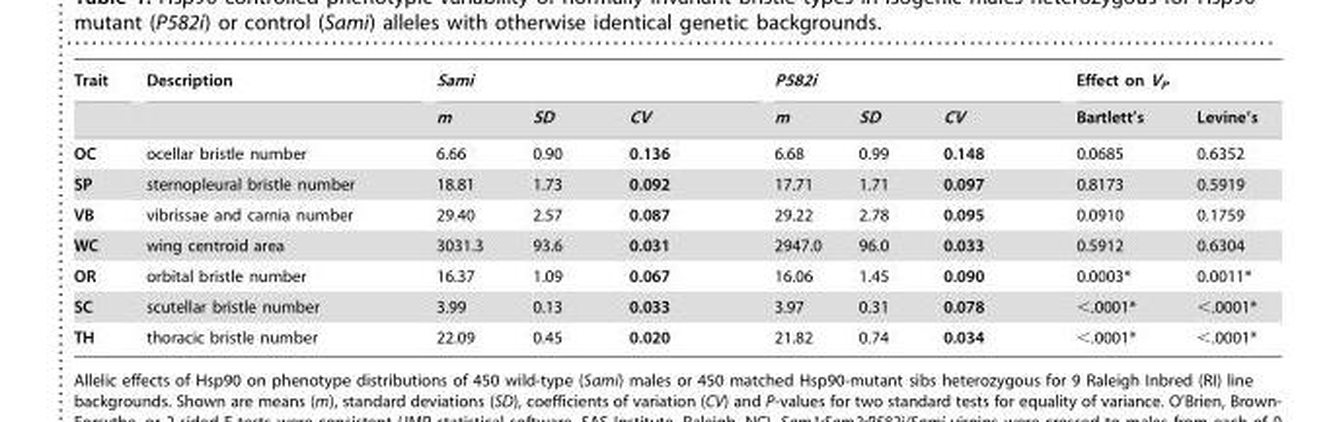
<table><thead><tr><td rowspan="2">Trait</td><td rowspan="2">Description</td><td colspan="3">Sami</td><td colspan="3">P582i</td><td colspan="2">Effect on V<sub>P</sub></td></tr><tr><td>m</td><td>SD</td><td>CV</td><td>m</td><td>SD</td><td>CV</td><td>Bartlett’s</td><td>Levine’s</td></tr></thead><tbody><tr><td>OC</td><td>ocellar bristle number</td><td>6.66</td><td>0.90</td><td>0.136</td><td>6.68</td><td>0.99</td><td>0.148</td><td>0.0685</td><td>0.6352</td></tr><tr><td>SP</td><td>sternopleural bristle number</td><td>18.81</td><td>1.73</td><td>0.092</td><td>17.71</td><td>1.71</td><td>0.097</td><td>0.8173</td><td>0.5919</td></tr><tr><td>VB</td><td>vibrissae and carnia number</td><td>29.40</td><td>2.57</td><td>0.087</td><td>29.22</td><td>2.78</td><td>0.095</td><td>0.0910</td><td>0.1759</td></tr><tr><td>WC</td><td>wing centroid area</td><td>3031.3</td><td>93.6</td><td>0.031</td><td>2947.0</td><td>96.0</td><td>0.033</td><td>0.5912</td><td>0.6304</td></tr><tr><td>OR</td><td>orbital bristle number</td><td>16.37</td><td>1.09</td><td>0.067</td><td>16.06</td><td>1.45</td><td>0.090</td><td>0.0003*</td><td>0.0011*</td></tr><tr><td>SC</td><td>scutellar bristle number</td><td>3.99</td><td>0.13</td><td>0.033</td><td>3.97</td><td>0.31</td><td>0.078</td><td>&lt;.0001*</td><td>&lt;.0001*</td></tr><tr><td>TH</td><td>thoracic bristle number</td><td>22.09</td><td>0.45</td><td>0.020</td><td>21.82</td><td>0.74</td><td>0.034</td><td>&lt;.0001*</td><td>&lt;.0001*</td></tr></tbody></table>